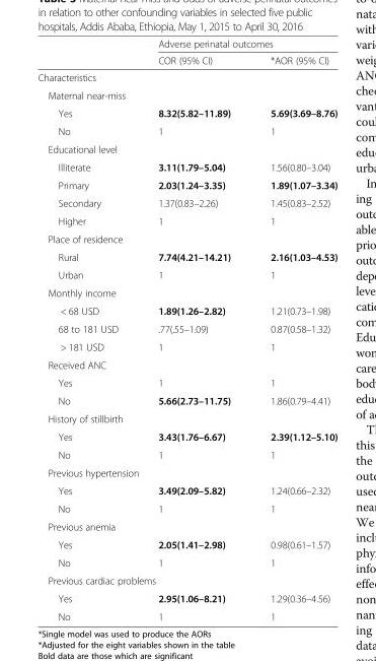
<table><thead><tr><td rowspan="2"></td><td colspan="2">Adverse perinatal outcomes</td></tr><tr><td>COR (95% CI)</td><td>*AOR (95% CI)</td></tr></thead><tbody><tr><td colspan="3">Characteristics</td></tr><tr><td colspan="3">Maternal near-miss</td></tr><tr><td>Yes</td><td>8.32(5.82–11.89)</td><td>5.69(3.69–8.76)</td></tr><tr><td>No</td><td>1</td><td>1</td></tr><tr><td colspan="3">Educational level</td></tr><tr><td>Illiterate</td><td>3.11(1.79–5.04)</td><td>1.56(0.80–3.04)</td></tr><tr><td>Primary</td><td>2.03(1.24–3.35)</td><td>1.89(1.07–3.34)</td></tr><tr><td>Secondary</td><td>1.37(0.83–2.26)</td><td>1.45(0.83–2.52)</td></tr><tr><td>Higher</td><td>1</td><td>1</td></tr><tr><td colspan="3">Place of residence</td></tr><tr><td>Rural</td><td>7.74(4.21–14.21)</td><td>2.16(1.03–4.53)</td></tr><tr><td>Urban</td><td>1</td><td>1</td></tr><tr><td colspan="3">Monthly income</td></tr><tr><td>&lt; 68 USD</td><td>1.89(1.26–2.82)</td><td>1.21(0.73–1.98)</td></tr><tr><td>68 to 181 USD</td><td>.77(.55–1.09)</td><td>0.87(0.58–1.32)</td></tr><tr><td>&gt; 181 USD</td><td>1</td><td>1</td></tr><tr><td colspan="3">Received ANC</td></tr><tr><td>Yes</td><td>1</td><td>1</td></tr><tr><td>No</td><td>5.66(2.73–11.75)</td><td>1.86(0.79–4.41)</td></tr><tr><td colspan="3">History of stillbirth</td></tr><tr><td>Yes</td><td>3.43(1.76–6.67)</td><td>2.39(1.12–5.10)</td></tr><tr><td>No</td><td>1</td><td>1</td></tr><tr><td colspan="3">Previous hypertension</td></tr><tr><td>Yes</td><td>3.49(2.09–5.82)</td><td>1.24(0.66–2.32)</td></tr><tr><td>No</td><td>1</td><td>1</td></tr><tr><td colspan="3">Previous anemia</td></tr><tr><td>Yes</td><td>2.05(1.41–2.98)</td><td>0.98(0.61–1.57)</td></tr><tr><td>No</td><td>1</td><td>1</td></tr><tr><td colspan="3">Previous cardiac problems</td></tr><tr><td>Yes</td><td>2.95(1.06–8.21)</td><td>1.29(0.36–4.56)</td></tr><tr><td>No</td><td>1</td><td>1</td></tr></tbody></table>